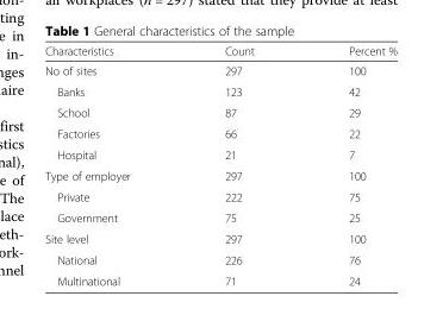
<table><thead><tr><td>Characteristics</td><td>Count</td><td>Percent %</td></tr></thead><tbody><tr><td>No of sites</td><td>297</td><td>100</td></tr><tr><td>Banks</td><td>123</td><td>42</td></tr><tr><td>School</td><td>87</td><td>29</td></tr><tr><td>Factories</td><td>66</td><td>22</td></tr><tr><td>Hospital</td><td>21</td><td>7</td></tr><tr><td>Type of employer</td><td>297</td><td>100</td></tr><tr><td>Private</td><td>222</td><td>75</td></tr><tr><td>Government</td><td>75</td><td>25</td></tr><tr><td>Site level</td><td>297</td><td>100</td></tr><tr><td>National</td><td>226</td><td>76</td></tr><tr><td>Multinational</td><td>71</td><td>24</td></tr></tbody></table>